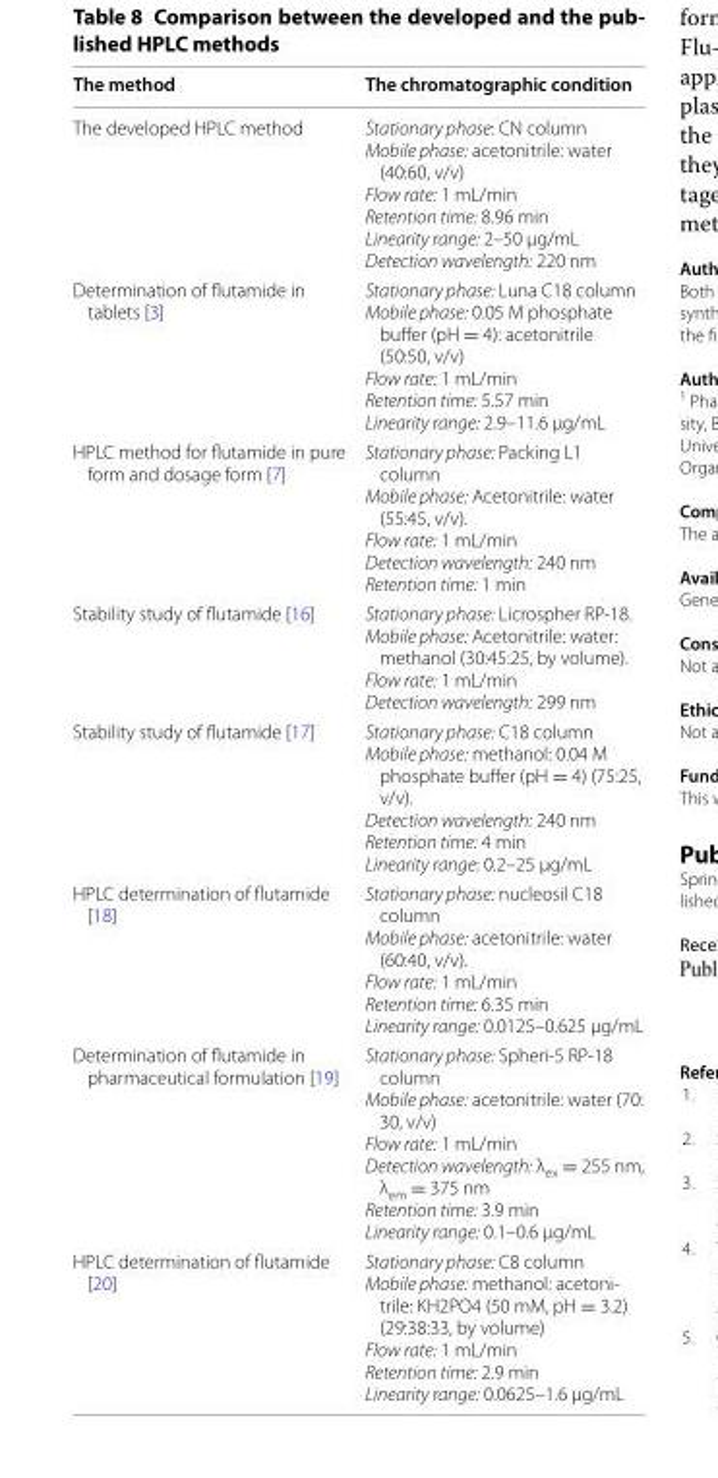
<table><thead><tr><td>The method</td><td>The chromatographic condition</td></tr></thead><tbody><tr><td>The developed HPLC method</td><td>Stationary phase: CN column Mobile phase: acetonitrile: water (40:60, v/v) Flow rate: 1 mL/min Retention time: 8.96 min Linearity range: 2–50 µg/mL Detection wavelength: 220 nm</td></tr><tr><td>Determination of flutamide in tablets [3]</td><td>Stationary phase: Luna C18 column Mobile phase: 0.05 M phosphate buffer (pH = 4): acetonitrile (50:50, v/v) Flow rate: 1 mL/min Retention time: 5.57 min Linearity range: 2.9–11.6 µg/mL</td></tr><tr><td>HPLC method for flutamide in pure form and dosage form [7]</td><td>Stationary phase: Packing L1 column Mobile phase: Acetonitrile: water (55:45, v/v). Flow rate: 1 mL/min Detection wavelength: 240 nm Retention time: 1 min</td></tr><tr><td>Stability study of flutamide [16]</td><td>Stationary phase: Licrospher RP-18. Mobile phase: Acetonitrile: water: methanol (30:45:25, by volume). Flow rate: 1 mL/min Detection wavelength: 299 nm</td></tr><tr><td>Stability study of flutamide [17]</td><td>Stationary phase: C18 column Mobile phase: methanol: 0.04 M phosphate buffer (pH = 4) (75:25, v/v). Detection wavelength: 240 nm Retention time: 4 min Linearity range: 0.2–25 µg/mL</td></tr><tr><td>HPLC determination of flutamide [18]</td><td>Stationary phase: nucleosil C18 column Mobile phase: acetonitrile: water (60:40, v/v). Flow rate: 1 mL/min Retention time: 6.35 min Linearity range: 0.0125–0.625 µg/mL</td></tr><tr><td>Determination of flutamide in pharmaceutical formulation [19]</td><td>Stationary phase: Spheri-5 RP-18 column Mobile phase: acetonitrile: water (70: 30, v/v) Flow rate: 1 mL/min Detection wavelength: λ<sub>ex</sub> = 255 nm, λ<sub>em</sub> = 375 nm Retention time: 3.9 min Linearity range: 0.1–0.6 µg/mL</td></tr><tr><td>HPLC determination of flutamide [20]</td><td>Stationary phase: C8 column Mobile phase: methanol: acetoni- trile: KH2PO4 (50 mM, pH = 3.2) (29:38:33, by volume) Flow rate: 1 mL/min Retention time: 2.9 min Linearity range: 0.0625–1.6 µg/mL</td></tr></tbody></table>